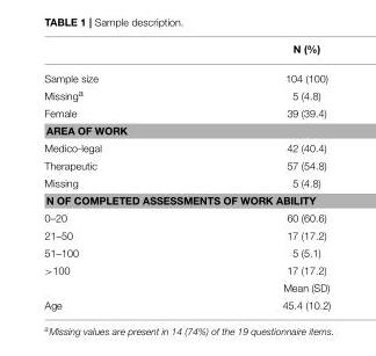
<table><thead><tr><td></td><td>N (%)</td></tr></thead><tbody><tr><td>Sample size</td><td>104 (100)</td></tr><tr><td>Missing<sup>a</sup></td><td>5 (4.8)</td></tr><tr><td>Female</td><td>39 (39.4)</td></tr><tr><td colspan="2">AREA OF WORK</td></tr><tr><td>Medico-legal</td><td>42 (40.4)</td></tr><tr><td>Therapeutic</td><td>57 (54.8)</td></tr><tr><td>Missing</td><td>5 (4.8)</td></tr><tr><td colspan="2">N OF COMPLETED ASSESSMENTS OF WORK ABILITY</td></tr><tr><td>0–20</td><td>60 (60.6)</td></tr><tr><td>21–50</td><td>17 (17.2)</td></tr><tr><td>51–100</td><td>5 (5.1)</td></tr><tr><td rowspan="2">&gt;100</td><td>17 (17.2)</td></tr><tr><td>Mean (SD)</td></tr><tr><td>Age</td><td>45.4 (10.2)</td></tr></tbody></table>